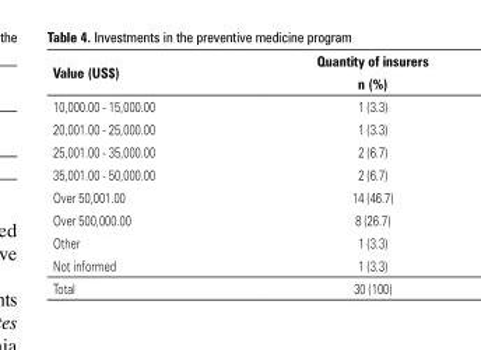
<table><thead><tr><td>Value (Us$)</td><td>Quantity of insurers n (%)</td></tr></thead><tbody><tr><td>10,000.00 - 15,000.00</td><td>1 (3.3)</td></tr><tr><td>20,001.00 - 25,000.00</td><td>1 (3.3)</td></tr><tr><td>25,001.00 - 35,000.00</td><td>2 (6.7)</td></tr><tr><td>35,001.00 - 50,000.00</td><td>2 (6.7)</td></tr><tr><td>Over 50,001.00</td><td>14 (46.7)</td></tr><tr><td>Over 500,000.00</td><td>8 (26.7)</td></tr><tr><td>Other</td><td>1 (3.3)</td></tr><tr><td>Not informed</td><td>1 (3.3)</td></tr><tr><td>Total</td><td>30 (100)</td></tr></tbody></table>